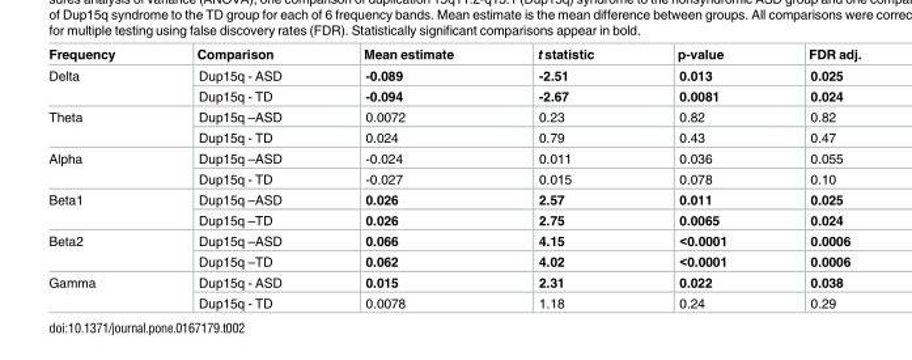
<table><thead><tr><td>Frequency</td><td>Comparison</td><td>Mean estimate</td><td>t statistic</td><td>p-value</td><td>FDR adj.</td></tr></thead><tbody><tr><td rowspan="2">Delta</td><td>Dup15q - ASD</td><td>-0.089</td><td>-2.51</td><td>0.013</td><td>0.025</td></tr><tr><td>Dup15q - TD</td><td>-0.094</td><td>-2.67</td><td>0.0081</td><td>0.024</td></tr><tr><td rowspan="2">Theta</td><td>Dup15q –ASD</td><td>0.0072</td><td>0.23</td><td>0.82</td><td>0.82</td></tr><tr><td>Dup15q - TD</td><td>0.024</td><td>0.79</td><td>0.43</td><td>0.47</td></tr><tr><td rowspan="2">Alpha</td><td>Dup15q –ASD</td><td>-0.024</td><td>0.011</td><td>0.036</td><td>0.055</td></tr><tr><td>Dup15q - TD</td><td>-0.027</td><td>0.015</td><td>0.078</td><td>0.10</td></tr><tr><td rowspan="2">Beta1</td><td>Dup15q –ASD</td><td>0.026</td><td>2.57</td><td>0.011</td><td>0.025</td></tr><tr><td>Dup15q –TD</td><td>0.026</td><td>2.75</td><td>0.0065</td><td>0.024</td></tr><tr><td rowspan="2">Beta2</td><td>Dup15q –ASD</td><td>0.066</td><td>4.15</td><td>&lt;0.0001</td><td>0.0006</td></tr><tr><td>Dup15q –TD</td><td>0.062</td><td>4.02</td><td>&lt;0.0001</td><td>0.0006</td></tr><tr><td rowspan="2">Gamma</td><td>Dup15q - ASD</td><td>0.015</td><td>2.31</td><td>0.022</td><td>0.038</td></tr><tr><td>Dup15q - TD</td><td>0.0078</td><td>1.18</td><td>0.24</td><td>0.29</td></tr></tbody></table>